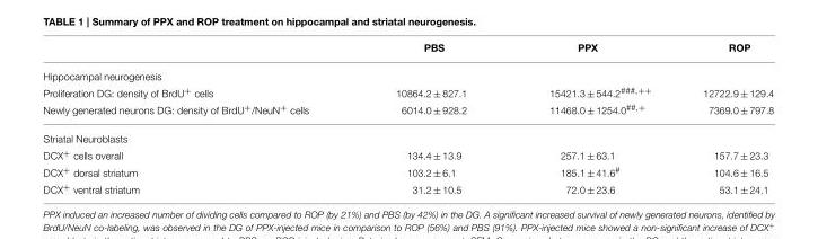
<table><thead><tr><td></td><td>PBS</td><td>PPX</td><td>ROP</td></tr></thead><tbody><tr><td colspan="4">Hippocampal neurogenesis</td></tr><tr><td>Proliferation DG: density of BrdU<sup>+</sup> cells</td><td>10864.2 ± 827.1</td><td>15421.3 ± 544.2<sup>###,++</sup></td><td>12722.9 ± 129.4</td></tr><tr><td>Newly generated neurons DG: density of BrdU<sup>+</sup>/NeuN<sup>+</sup> cells</td><td>6014.0 ± 928.2</td><td>11468.0 ± 1254.0<sup>##,+</sup></td><td>7369.0 ± 797.8</td></tr><tr><td colspan="4">Striatal Neuroblasts</td></tr><tr><td>DCX<sup>+</sup> cells overall</td><td>134.4 ± 13.9</td><td>257.1 ± 63.1</td><td>157.7 ± 23.3</td></tr><tr><td>DCX<sup>+</sup> dorsal striatum</td><td>103.2 ± 6.1</td><td>185.1 ± 41.6<sup>#</sup></td><td>104.6 ± 16.5</td></tr><tr><td>DCX<sup>+</sup> ventral striatum</td><td>31.2 ± 10.5</td><td>72.0 ± 23.6</td><td>53.1 ± 24.1</td></tr></tbody></table>